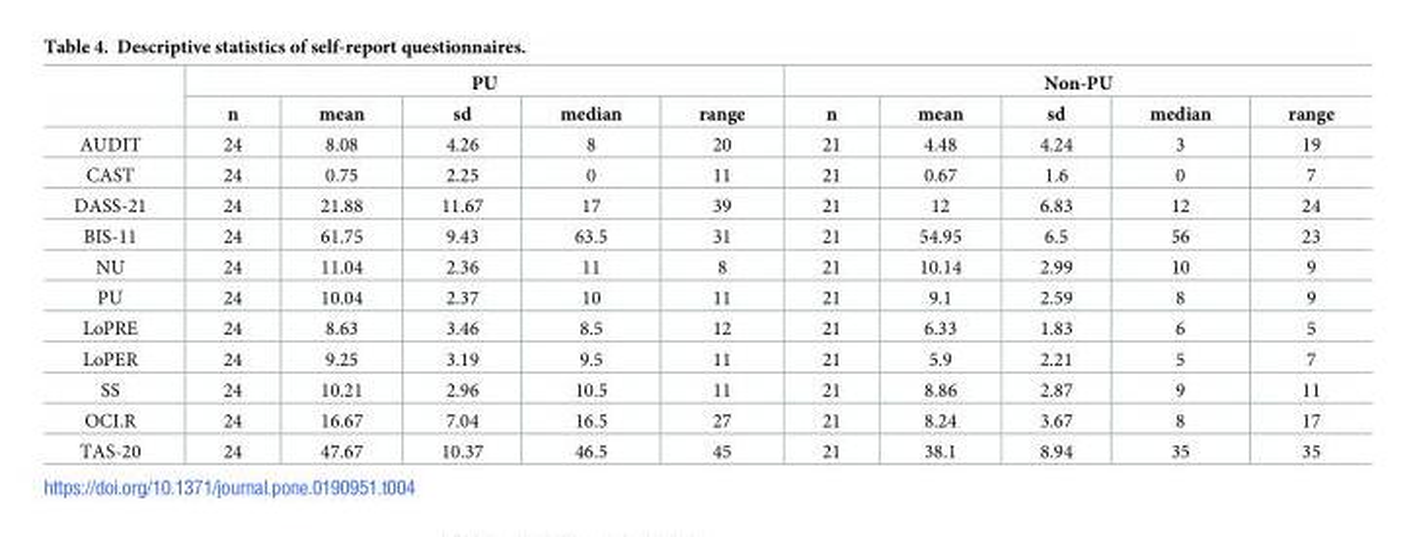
<table><thead><tr><td rowspan="2"></td><td colspan="5">PU</td><td colspan="5">Non-PU</td></tr><tr><td>n</td><td>mean</td><td>sd</td><td>median</td><td>range</td><td>n</td><td>mean</td><td>sd</td><td>median</td><td>range</td></tr></thead><tbody><tr><td>AUDIT</td><td>24</td><td>8.08</td><td>4.26</td><td>8</td><td>20</td><td>21</td><td>4.48</td><td>4.24</td><td>3</td><td>19</td></tr><tr><td>CAST</td><td>24</td><td>0.75</td><td>2.25</td><td>0</td><td>11</td><td>21</td><td>0.67</td><td>1.6</td><td>0</td><td>7</td></tr><tr><td>DASS-21</td><td>24</td><td>21.88</td><td>11.67</td><td>17</td><td>39</td><td>21</td><td>12</td><td>6.83</td><td>12</td><td>24</td></tr><tr><td>BIS-11</td><td>24</td><td>61.75</td><td>9.43</td><td>63.5</td><td>31</td><td>21</td><td>54.95</td><td>6.5</td><td>56</td><td>23</td></tr><tr><td>NU</td><td>24</td><td>11.04</td><td>2.36</td><td>11</td><td>8</td><td>21</td><td>10.14</td><td>2.99</td><td>10</td><td>9</td></tr><tr><td>PU</td><td>24</td><td>10.04</td><td>2.37</td><td>10</td><td>11</td><td>21</td><td>9.1</td><td>2.59</td><td>8</td><td>9</td></tr><tr><td>LoPRE</td><td>24</td><td>8.63</td><td>3.46</td><td>8.5</td><td>12</td><td>21</td><td>6.33</td><td>1.83</td><td>6</td><td>5</td></tr><tr><td>LoPER</td><td>24</td><td>9.25</td><td>3.19</td><td>9.5</td><td>11</td><td>21</td><td>5.9</td><td>2.21</td><td>5</td><td>7</td></tr><tr><td>SS</td><td>24</td><td>10.21</td><td>2.96</td><td>10.5</td><td>11</td><td>21</td><td>8.86</td><td>2.87</td><td>9</td><td>11</td></tr><tr><td>OCI.R</td><td>24</td><td>16.67</td><td>7.04</td><td>16.5</td><td>27</td><td>21</td><td>8.24</td><td>3.67</td><td>8</td><td>17</td></tr><tr><td>TAS-20</td><td>24</td><td>47.67</td><td>10.37</td><td>46.5</td><td>45</td><td>21</td><td>38.1</td><td>8.94</td><td>35</td><td>35</td></tr></tbody></table>